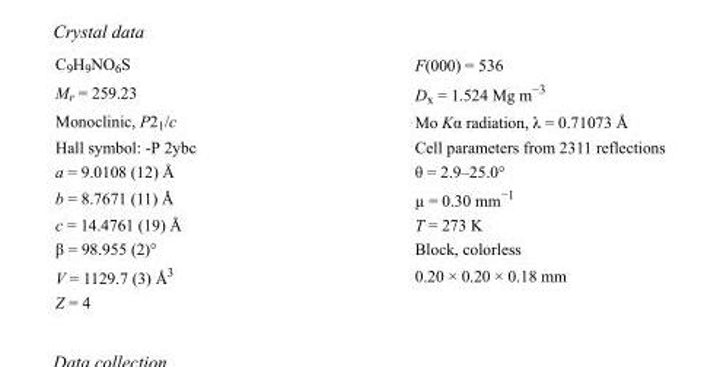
<table><tbody><tr><td>C<sub>9</sub>H<sub>9</sub>NO<sub>6</sub>S</td><td>F(000) = 536</td></tr><tr><td>M<sub>r</sub> = 259.23</td><td>D<sub>x</sub> = 1.524 Mg m<sup>−3</sup></td></tr><tr><td>Monoclinic, P2<sub>1</sub>/c</td><td>Mo Kα radiation, λ = 0.71073 Å</td></tr><tr><td>Hall symbol: -P 2ybc</td><td>Cell parameters from 2311 reflections</td></tr><tr><td>a = 9.0108 (12) Å</td><td>θ = 2.9–25.0°</td></tr><tr><td>b = 8.7671 (11) Å</td><td>µ = 0.30 mm<sup>−1</sup></td></tr><tr><td>c = 14.4761 (19) Å</td><td>T = 273 K</td></tr><tr><td>β = 98.955 (2)°</td><td>Block, colorless</td></tr><tr><td>V = 1129.7 (3) Å<sup>3</sup></td><td>0.20 × 0.20 × 0.18 mm</td></tr><tr><td>Z = 4</td><td></td></tr></tbody></table>